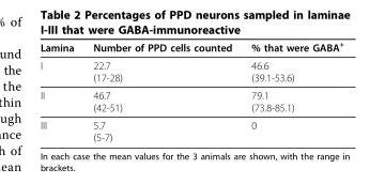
<table><thead><tr><td>Lamina</td><td>Number of PPD cells counted</td><td>% that were GABA<sup>+</sup></td></tr></thead><tbody><tr><td>I</td><td>22.7 (17-28)</td><td>46.6 (39.1-53.6)</td></tr><tr><td>II</td><td>46.7 (42-51)</td><td>79.1 (73.8-85.1)</td></tr><tr><td>III</td><td>5.7 (5-7)</td><td>0</td></tr></tbody></table>